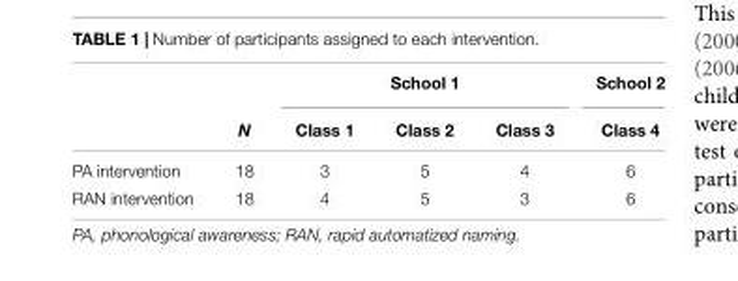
<table><thead><tr><td rowspan="2"></td><td rowspan="2">N</td><td colspan="3">School 1</td><td rowspan="2">School 2 Class 4</td></tr><tr><td>Class 1</td><td>Class 2</td><td>Class 3</td></tr></thead><tbody><tr><td>PA intervention</td><td>18</td><td>3</td><td>5</td><td>4</td><td>6</td></tr><tr><td>RAN intervention</td><td>18</td><td>4</td><td>5</td><td>3</td><td>6</td></tr></tbody></table>